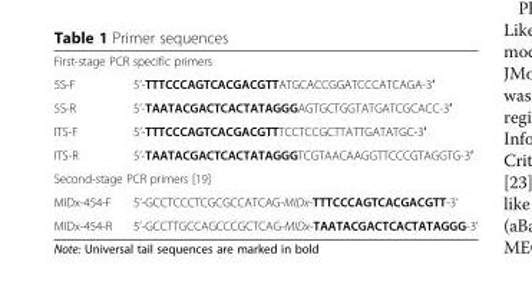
<table><tbody><tr><td colspan="2">First-stage PCR specific primers</td></tr><tr><td>5S-F</td><td>5’-TTTCCCAGTCACGACGTTATGCACCGGATCCCATCAGA-3′</td></tr><tr><td>5S-R</td><td>5’-TAATACGACTCACTATAGGGAGTGCTGGTATGATCGCACC-3′</td></tr><tr><td>ITS-F</td><td>5’-TTTCCCAGTCACGACGTTTCCTCCGCTTATTGATATGC-3′</td></tr><tr><td>ITS-R</td><td>5’-TAATACGACTCACTATAGGGTCGTAACAAGGTTCCCGTAGGTG-3′</td></tr><tr><td colspan="2">Second-stage PCR primers [19]</td></tr><tr><td>MIDх-454-F</td><td>5’-GCCTCCCTCGCGCCATCAG-MIDx-TTTCCCAGTCACGACGTT-3’</td></tr><tr><td>MIDх-454-R</td><td>5’-GCCTTGCCAGCCCGCTCAG-MIDx-TAATACGACTCACTATAGGG-3’</td></tr></tbody></table>